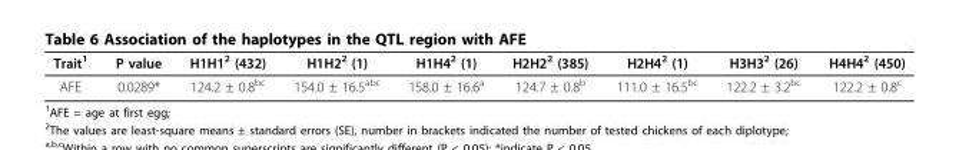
<table><thead><tr><td>Trait<sup>1</sup></td><td>P value</td><td>H1H1<sup>2</sup> (432)</td><td>H1H2<sup>2</sup> (1)</td><td>H1H4<sup>2</sup> (1)</td><td>H2H2<sup>2</sup> (385)</td><td>H2H4<sup>2</sup> (1)</td><td>H3H3<sup>2</sup> (26)</td><td>H4H4<sup>2</sup> (450)</td></tr></thead><tbody><tr><td>AFE</td><td>0.0289*</td><td>124.2 ± 0.8<sup>bc</sup></td><td>154.0 ± 16.5<sup>abc</sup></td><td>158.0 ± 16.6<sup>a</sup></td><td>124.7 ± 0.8<sup>b</sup></td><td>111.0 ± 16.5<sup>bc</sup></td><td>122.2 ± 3.2<sup>bc</sup></td><td>122.2 ± 0.8<sup>c</sup></td></tr></tbody></table>